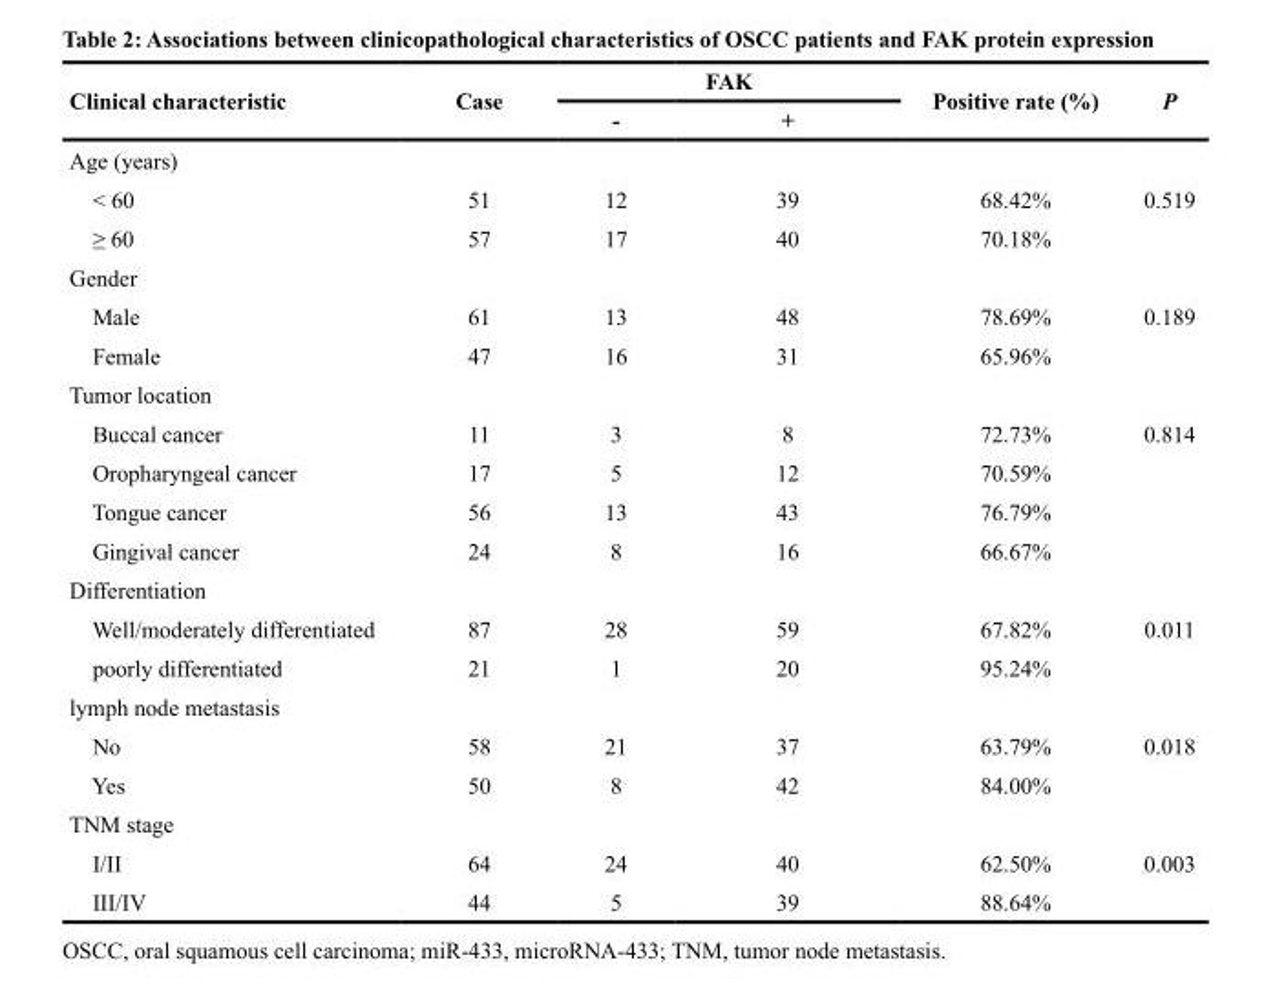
<table><thead><tr><td rowspan="2">Clinical characteristic</td><td rowspan="2">Case</td><td colspan="2">FAK</td><td rowspan="2">Positive rate (%)</td><td rowspan="2">P</td></tr><tr><td>-</td><td>+</td></tr></thead><tbody><tr><td colspan="6">Age (years)</td></tr><tr><td>&lt; 60</td><td>51</td><td>12</td><td>39</td><td>68.42%</td><td>0.519</td></tr><tr><td>≥ 60</td><td>57</td><td>17</td><td>40</td><td>70.18%</td><td></td></tr><tr><td colspan="6">Gender</td></tr><tr><td>Male</td><td>61</td><td>13</td><td>48</td><td>78.69%</td><td>0.189</td></tr><tr><td>Female</td><td>47</td><td>16</td><td>31</td><td>65.96%</td><td></td></tr><tr><td colspan="6">Tumor location</td></tr><tr><td>Buccal cancer</td><td>11</td><td>3</td><td>8</td><td>72.73%</td><td>0.814</td></tr><tr><td>Oropharyngeal cancer</td><td>17</td><td>5</td><td>12</td><td>70.59%</td><td></td></tr><tr><td>Tongue cancer</td><td>56</td><td>13</td><td>43</td><td>76.79%</td><td></td></tr><tr><td>Gingival cancer</td><td>24</td><td>8</td><td>16</td><td>66.67%</td><td></td></tr><tr><td colspan="6">Differentiation</td></tr><tr><td>Well/moderately differentiated</td><td>87</td><td>28</td><td>59</td><td>67.82%</td><td>0.011</td></tr><tr><td>poorly differentiated</td><td>21</td><td>1</td><td>20</td><td>95.24%</td><td></td></tr><tr><td colspan="6">lymph node metastasis</td></tr><tr><td>No</td><td>58</td><td>21</td><td>37</td><td>63.79%</td><td>0.018</td></tr><tr><td>Yes</td><td>50</td><td>8</td><td>42</td><td>84.00%</td><td></td></tr><tr><td colspan="6">TNM stage</td></tr><tr><td>I/II</td><td>64</td><td>24</td><td>40</td><td>62.50%</td><td>0.003</td></tr><tr><td>III/IV</td><td>44</td><td>5</td><td>39</td><td>88.64%</td><td></td></tr></tbody></table>